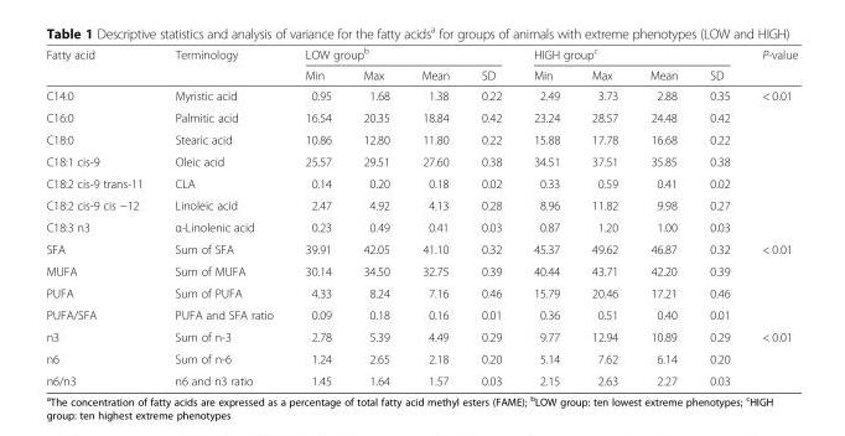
<table><thead><tr><td rowspan="2">Fatty acid</td><td rowspan="2">Terminology</td><td colspan="4">LOW group<sup>b</sup></td><td colspan="4">HIGH group<sup>c</sup></td><td rowspan="2">P-value</td></tr><tr><td>Min</td><td>Max</td><td>Mean</td><td>SD</td><td>Min</td><td>Max</td><td>Mean</td><td>SD</td></tr></thead><tbody><tr><td>C14:0</td><td>Myristic acid</td><td>0.95</td><td>1.68</td><td>1.38</td><td>0.22</td><td>2.49</td><td>3.73</td><td>2.88</td><td>0.35</td><td rowspan="7">&lt; 0.01</td></tr><tr><td>C16:0</td><td>Palmitic acid</td><td>16.54</td><td>20.35</td><td>18.84</td><td>0.42</td><td>23.24</td><td>28.57</td><td>24.48</td><td>0.42</td></tr><tr><td>C18:0</td><td>Stearic acid</td><td>10.86</td><td>12.80</td><td>11.80</td><td>0.22</td><td>15.88</td><td>17.78</td><td>16.68</td><td>0.22</td></tr><tr><td>C18:1 cis-9</td><td>Oleic acid</td><td>25.57</td><td>29.51</td><td>27.60</td><td>0.38</td><td>34.51</td><td>37.51</td><td>35.85</td><td>0.38</td></tr><tr><td>C18:2 cis-9 trans-11</td><td>CLA</td><td>0.14</td><td>0.20</td><td>0.18</td><td>0.02</td><td>0.33</td><td>0.59</td><td>0.41</td><td>0.02</td></tr><tr><td>C18:2 cis-9 cis −12</td><td>Linoleic acid</td><td>2.47</td><td>4.92</td><td>4.13</td><td>0.28</td><td>8.96</td><td>11.82</td><td>9.98</td><td>0.27</td></tr><tr><td>C18:3 n3</td><td>α-Linolenic acid</td><td>0.23</td><td>0.49</td><td>0.41</td><td>0.03</td><td>0.87</td><td>1.20</td><td>1.00</td><td>0.03</td></tr><tr><td>SFA</td><td>Sum of SFA</td><td>39.91</td><td>42.05</td><td>41.10</td><td>0.32</td><td>45.37</td><td>49.62</td><td>46.87</td><td>0.32</td><td rowspan="4">&lt; 0.01</td></tr><tr><td>MUFA</td><td>Sum of MUFA</td><td>30.14</td><td>34.50</td><td>32.75</td><td>0.39</td><td>40.44</td><td>43.71</td><td>42.20</td><td>0.39</td></tr><tr><td>PUFA</td><td>Sum of PUFA</td><td>4.33</td><td>8.24</td><td>7.16</td><td>0.46</td><td>15.79</td><td>20.46</td><td>17.21</td><td>0.46</td></tr><tr><td>PUFA/SFA</td><td>PUFA and SFA ratio</td><td>0.09</td><td>0.18</td><td>0.16</td><td>0.01</td><td>0.36</td><td>0.51</td><td>0.40</td><td>0.01</td></tr><tr><td>n3</td><td>Sum of n-3</td><td>2.78</td><td>5.39</td><td>4.49</td><td>0.29</td><td>9.77</td><td>12.94</td><td>10.89</td><td>0.29</td><td rowspan="3">&lt; 0.01</td></tr><tr><td>n6</td><td>Sum of n-6</td><td>1.24</td><td>2.65</td><td>2.18</td><td>0.20</td><td>5.14</td><td>7.62</td><td>6.14</td><td>0.20</td></tr><tr><td>n6/n3</td><td>n6 and n3 ratio</td><td>1.45</td><td>1.64</td><td>1.57</td><td>0.03</td><td>2.15</td><td>2.63</td><td>2.27</td><td>0.03</td></tr></tbody></table>